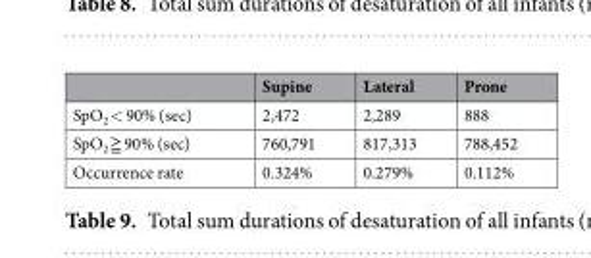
<table><thead><tr><td></td><td>Supine</td><td>Lateral</td><td>Prone</td></tr></thead><tbody><tr><td>SpO<sub>2</sub> &lt; 90% (sec)</td><td>2,472</td><td>2,289</td><td>888</td></tr><tr><td>SpO<sub>2</sub> ≧ 90% (sec)</td><td>760,791</td><td>817,313</td><td>788,452</td></tr><tr><td>Occurrence rate</td><td>0.324%</td><td>0.279%</td><td>0.112%</td></tr></tbody></table>